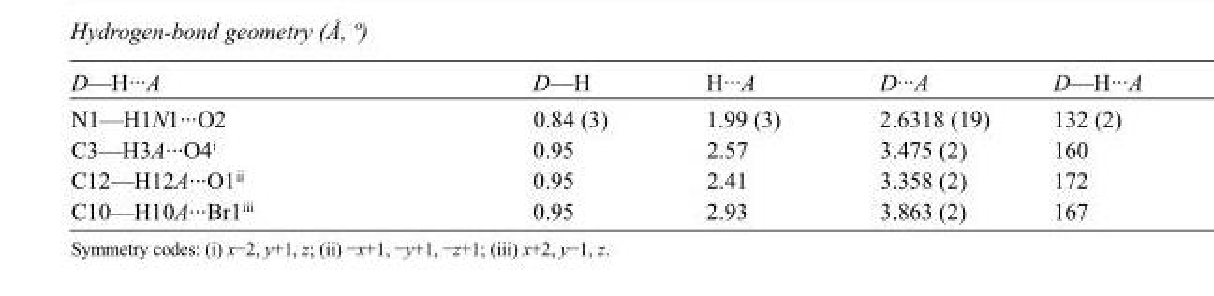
<table><tbody><tr><td>D—H···A</td><td>D—H</td><td>H···A</td><td>D···A</td><td>D—H···A</td></tr><tr><td>N1—H1N1···O2</td><td>0.84 (3)</td><td>1.99 (3)</td><td>2.6318 (19)</td><td>132 (2)</td></tr><tr><td>C3—H3A···O4<sup>i</sup></td><td>0.95</td><td>2.57</td><td>3.475 (2)</td><td>160</td></tr><tr><td>C12—H12A···O1<sup>ii</sup></td><td>0.95</td><td>2.41</td><td>3.358 (2)</td><td>172</td></tr><tr><td>C10—H10A···Br1<sup>iii</sup></td><td>0.95</td><td>2.93</td><td>3.863 (2)</td><td>167</td></tr></tbody></table>